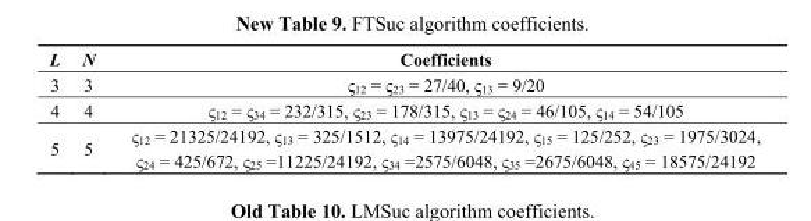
<table><thead><tr><td>L</td><td>N</td><td>Coefficients</td></tr></thead><tbody><tr><td>3</td><td>3</td><td>ς<sub>12</sub> = ς<sub>23</sub> = 27/40, ς<sub>13</sub> = 9/20</td></tr><tr><td>4</td><td>4</td><td>ς<sub>12</sub> = ς<sub>34</sub> = 232/315, ς<sub>23</sub> = 178/315, ς<sub>13</sub> = ς<sub>24</sub> = 46/105, ς<sub>14</sub> = 54/105</td></tr><tr><td>5</td><td>5</td><td>ς<sub>12</sub> = 21325/24192, ς<sub>13</sub> = 325/1512, ς<sub>14</sub> = 13975/24192, ς<sub>15</sub> = 125/252, ς<sub>23</sub> = 1975/3024, ς<sub>24</sub> = 425/672, ς<sub>25</sub> =11225/24192, ς<sub>34</sub> =2575/6048, ς<sub>35</sub> =2675/6048, ς<sub>45</sub> = 18575/24192</td></tr></tbody></table>